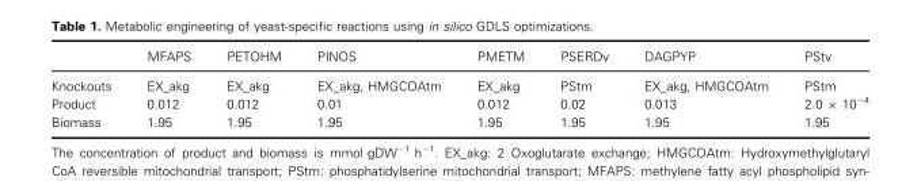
<table><thead><tr><td></td><td>MFAPS</td><td>PETOHM</td><td>PINOS</td><td>PMETM</td><td>PSERDv</td><td>DAGPYP</td><td>PStv</td></tr></thead><tbody><tr><td>Knockouts</td><td>EX_akg</td><td>EX_akg</td><td>EX_akg, HMGCOAtm</td><td>EX_akg</td><td>PStm</td><td>EX_akg, HMGCOAtm</td><td>PStm</td></tr><tr><td>Product</td><td>0.012</td><td>0.012</td><td>0.01</td><td>0.012</td><td>0.02</td><td>0.013</td><td>2.0 × 10<sup>−4</sup></td></tr><tr><td>Biomass</td><td>1.95</td><td>1.95</td><td>1.95</td><td>1.95</td><td>1.95</td><td>1.95</td><td>1.95</td></tr></tbody></table>